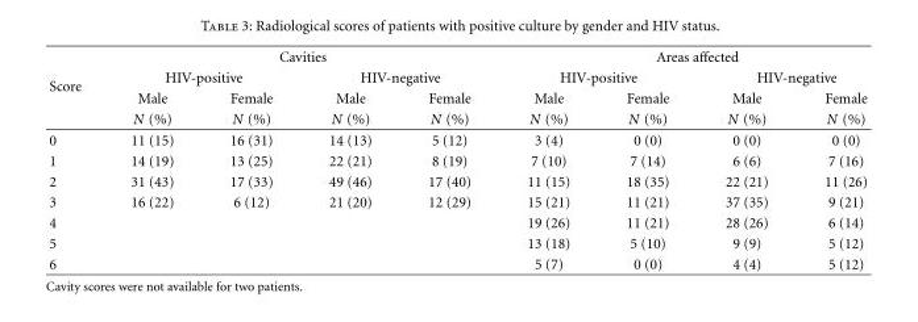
<table><thead><tr><td rowspan="4">Score</td><td colspan="4">Cavities</td><td colspan="4">Areas affected</td></tr><tr><td colspan="2">HIV-positive</td><td colspan="2">HIV-negative</td><td colspan="2">HIV-positive</td><td colspan="2">HIV-negative</td></tr><tr><td rowspan="2">Male N (%)</td><td rowspan="2">Female N (%)</td><td rowspan="2">Male N (%)</td><td rowspan="2">Female N (%)</td><td rowspan="2">Male N (%)</td><td rowspan="2">Female N (%)</td><td rowspan="2">Male N (%)</td><td rowspan="2">Female N (%)</td></tr><tr></tr></thead><tbody><tr><td>0</td><td>11 (15)</td><td>16 (31)</td><td>14 (13)</td><td>5 (12)</td><td>3 (4)</td><td>0 (0)</td><td>0 (0)</td><td>0 (0)</td></tr><tr><td>1</td><td>14 (19)</td><td>13 (25)</td><td>22 (21)</td><td>8 (19)</td><td>7 (10)</td><td>7 (14)</td><td>6 (6)</td><td>7 (16)</td></tr><tr><td>2</td><td>31 (43)</td><td>17 (33)</td><td>49 (46)</td><td>17 (40)</td><td>11 (15)</td><td>18 (35)</td><td>22 (21)</td><td>11 (26)</td></tr><tr><td>3</td><td>16 (22)</td><td>6 (12)</td><td>21 (20)</td><td>12 (29)</td><td>15 (21)</td><td>11 (21)</td><td>37 (35)</td><td>9 (21)</td></tr><tr><td>4</td><td></td><td></td><td></td><td></td><td>19 (26)</td><td>11 (21)</td><td>28 (26)</td><td>6 (14)</td></tr><tr><td>5</td><td></td><td></td><td></td><td></td><td>13 (18)</td><td>5 (10)</td><td>9 (9)</td><td>5 (12)</td></tr><tr><td>6</td><td></td><td></td><td></td><td></td><td>5 (7)</td><td>0 (0)</td><td>4 (4)</td><td>5 (12)</td></tr></tbody></table>